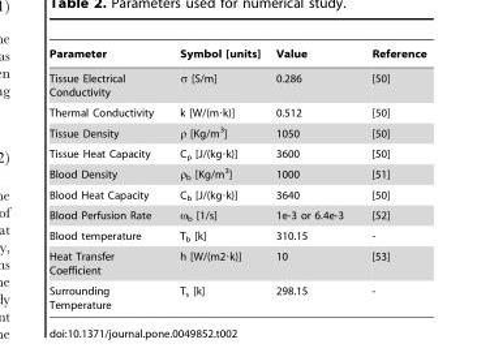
<table><thead><tr><td>Parameter</td><td>Symbol [units]</td><td>Value</td><td>Reference</td></tr></thead><tbody><tr><td>Tissue Electrical Conductivity</td><td>σ [S/m]</td><td>0.286</td><td>[50]</td></tr><tr><td>Thermal Conductivity</td><td>k [W/(m·k)]</td><td>0.512</td><td>[50]</td></tr><tr><td>Tissue Density</td><td>ρ [Kg/m<sup>3</sup>]</td><td>1050</td><td>[50]</td></tr><tr><td>Tissue Heat Capacity</td><td>C<sub>p</sub> [J/(kg·k)]</td><td>3600</td><td>[50]</td></tr><tr><td>Blood Density</td><td>ρ<sub>b</sub> [Kg/m<sup>3</sup>]</td><td>1000</td><td>[51]</td></tr><tr><td>Blood Heat Capacity</td><td>C<sub>b</sub> [J/(kg·k)]</td><td>3640</td><td>[50]</td></tr><tr><td>Blood Perfusion Rate</td><td>ω<sub>b</sub> [1/s]</td><td>1e-3 or 6.4e-3</td><td>[52]</td></tr><tr><td>Blood temperature</td><td>T<sub>b</sub> [k]</td><td>310.15</td><td>-</td></tr><tr><td>Heat Transfer Coefficient</td><td>h [W/(m2·k)]</td><td>10</td><td>[53]</td></tr><tr><td>Surrounding Temperature</td><td>T<sub>s</sub> [k]</td><td>298.15</td><td>-</td></tr></tbody></table>